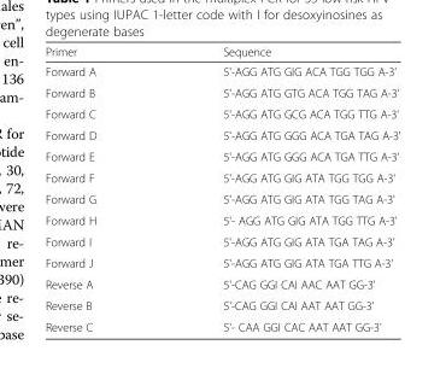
<table><thead><tr><td>Primer</td><td>Sequence</td></tr></thead><tbody><tr><td>Forward A</td><td>5&#x27;-AGG ATG GIG ACA TGG TGG A-3&#x27;</td></tr><tr><td>Forward B</td><td>5&#x27;-AGG ATG GTG ACA TGG TAG A-3&#x27;</td></tr><tr><td>Forward C</td><td>5&#x27;-AGG ATG GCG ACA TGG TTG A-3&#x27;</td></tr><tr><td>Forward D</td><td>5&#x27;-AGG ATG GGG ACA TGA TAG A-3&#x27;</td></tr><tr><td>Forward E</td><td>5&#x27;-AGG ATG GGG ACA TGA TTG A-3&#x27;</td></tr><tr><td>Forward F</td><td>5&#x27;-AGG ATG GIG ATA TGG TGG A-3&#x27;</td></tr><tr><td>Forward G</td><td>5&#x27;-AGG ATG GIG ATA TGG TAG A-3&#x27;</td></tr><tr><td>Forward H</td><td>5&#x27;- AGG ATG GIG ATA TGG TTG A-3&#x27;</td></tr><tr><td>Forward I</td><td>5&#x27;-AGG ATG GIG ATA TGA TAG A-3&#x27;</td></tr><tr><td>Forward J</td><td>5&#x27;-AGG ATG GIG ATA TGA TTG A-3&#x27;</td></tr><tr><td>Reverse A</td><td>5&#x27;-CAG GGI CAI AAC AAT GG-3&#x27;</td></tr><tr><td>Reverse B</td><td>5&#x27;-CAG GGI CAI AAT AAT GG-3&#x27;</td></tr><tr><td>Reverse C</td><td>5&#x27;- CAA GGI CAC AAT AAT GG-3&#x27;</td></tr></tbody></table>